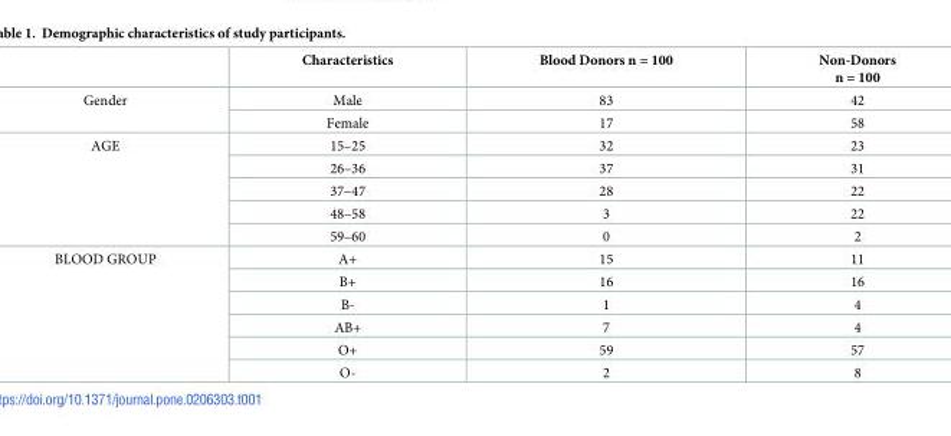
<table><thead><tr><td></td><td>Characteristics</td><td>Blood Donors n = 100</td><td>Non-Donors n = 100</td></tr></thead><tbody><tr><td rowspan="2">Gender</td><td>Male</td><td>83</td><td>42</td></tr><tr><td>Female</td><td>17</td><td>58</td></tr><tr><td rowspan="5">AGE</td><td>15–25</td><td>32</td><td>23</td></tr><tr><td>26–36</td><td>37</td><td>31</td></tr><tr><td>37–47</td><td>28</td><td>22</td></tr><tr><td>48–58</td><td>3</td><td>22</td></tr><tr><td>59–60</td><td>0</td><td>2</td></tr><tr><td rowspan="6">BLOOD GROUP</td><td>A+</td><td>15</td><td>11</td></tr><tr><td>B+</td><td>16</td><td>16</td></tr><tr><td>B-</td><td>1</td><td>4</td></tr><tr><td>AB+</td><td>7</td><td>4</td></tr><tr><td>O+</td><td>59</td><td>57</td></tr><tr><td>O-</td><td>2</td><td>8</td></tr></tbody></table>